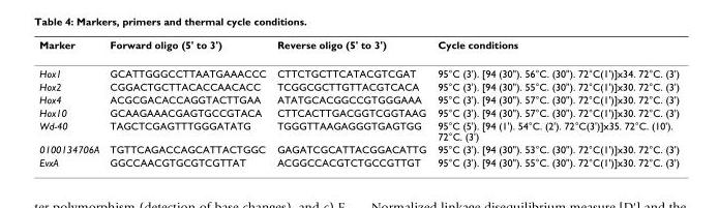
<table><thead><tr><td>Marker</td><td>Forward oligo (5&#x27; to 3&#x27;)</td><td>Reverse oligo (5&#x27; to 3&#x27;)</td><td>Cycle conditions</td></tr></thead><tbody><tr><td>Hox1</td><td>GCATTGGGCCTTAATGAAACCC</td><td>CTTCTGCTTCATACGTCGAT</td><td>95°C (3&#x27;). [94 (30&quot;). 56°C. (30&quot;). 72°C(1&#x27;)]x34. 72°C. (3&#x27;)</td></tr><tr><td>Hox2</td><td>CGGACTGCTTACACCAACACC</td><td>TCGGCGCTTGTTACGTCACA</td><td>95°C (3&#x27;). [94 (30&quot;). 55°C. (30&quot;). 72°C(1&#x27;)]x30. 72°C. (3&#x27;)</td></tr><tr><td>Hox4</td><td>ACGCGACACCAGGTACTTGAA</td><td>ATATGCACGGCCGTGGGAAA</td><td>95°C (3&#x27;). [94 (30&quot;). 57°C. (30&quot;). 72°C(1&#x27;)]x30. 72°C. (3&#x27;)</td></tr><tr><td>Hox10</td><td>GCAAGAAACGAGTGCCGTACA</td><td>CTTCACTTGACGGTCGGTAAG</td><td>95°C (3&#x27;). [94 (30&quot;). 57°C. (30&quot;). 72°C(1&#x27;)]x30. 72°C. (3&#x27;)</td></tr><tr><td>Wd-40</td><td>TAGCTCGAGTTTGGGATATG</td><td>TGGGTTAAGAGGGTGAGTGG</td><td>95°C (5&#x27;). [94 (1&#x27;). 54°C. (2&#x27;). 72°C(3&#x27;)]x35. 72°C. (10&#x27;). 72°C. (3&#x27;)</td></tr><tr><td>0100134706A</td><td>TGTTCAGACCAGCATTACTGGC</td><td>GAGATCGCATTACGGACATTG</td><td>95°C (3&#x27;). [94 (30&quot;). 53°C. (30&quot;). 72°C(1&#x27;)]x30. 72°C. (3&#x27;)</td></tr><tr><td>EvxA</td><td>GGCCAACGTGCGTCGTTAT</td><td>ACGGCCACGTCTGCCGTTGT</td><td>95°C (3&#x27;). [94 (30&quot;). 55°C. (30&quot;). 72°C(1&#x27;)]x30. 72°C. (3&#x27;)</td></tr></tbody></table>